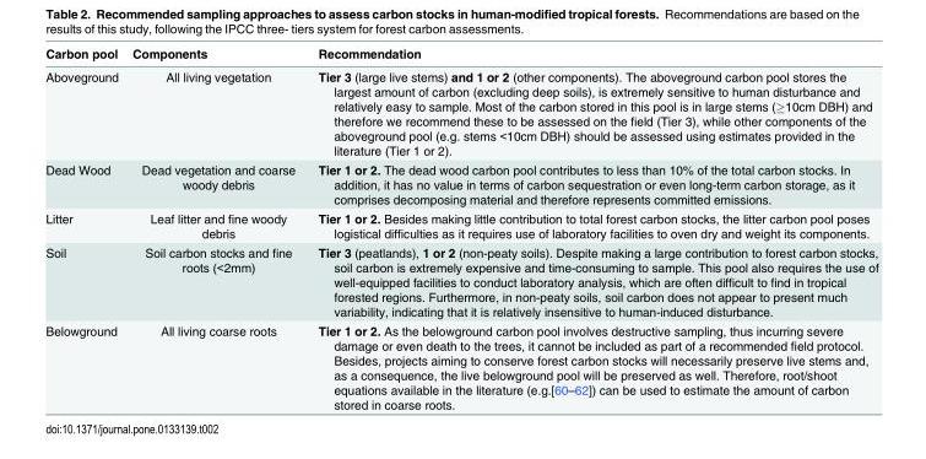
<table><thead><tr><td>Carbon pool</td><td>Components</td><td>Recommendation</td></tr></thead><tbody><tr><td>Aboveground</td><td>All living vegetation</td><td>Tier 3 (large live stems) and 1 or 2 (other components). The aboveground carbon pool stores the largest amount of carbon (excluding deep soils), is extremely sensitive to human disturbance and relatively easy to sample. Most of the carbon stored in this pool is in large stems (≥10cm DBH) and therefore we recommend these to be assessed on the field (Tier 3), while other components of the aboveground pool (e.g. stems &lt;10cm DBH) should be assessed using estimates provided in the literature (Tier 1 or 2).</td></tr><tr><td>Dead Wood</td><td>Dead vegetation and coarse woody debris</td><td>Tier 1 or 2. The dead wood carbon pool contributes to less than 10% of the total carbon stocks. In addition, it has no value in terms of carbon sequestration or even long-term carbon storage, as it comprises decomposing material and therefore represents committed emissions.</td></tr><tr><td>Litter</td><td>Leaf litter and fine woody debris</td><td>Tier 1 or 2. Besides making little contribution to total forest carbon stocks, the litter carbon pool poses logistical difficulties as it requires use of laboratory facilities to oven dry and weight its components.</td></tr><tr><td>Soil</td><td>Soil carbon stocks and fine roots (&lt;2mm)</td><td>Tier 3 (peatlands), 1 or 2 (non-peaty soils). Despite making a large contribution to forest carbon stocks, soil carbon is extremely expensive and time-consuming to sample. This pool also requires the use of well-equipped facilities to conduct laboratory analysis, which are often difficult to find in tropical forested regions. Furthermore, in non-peaty soils, soil carbon does not appear to present much variability, indicating that it is relatively insensitive to human-induced disturbance.</td></tr><tr><td>Belowground</td><td>All living coarse roots</td><td>Tier 1 or 2. As the belowground carbon pool involves destructive sampling, thus incurring severe damage or even death to the trees, it cannot be included as part of a recommended field protocol. Besides, projects aiming to conserve forest carbon stocks will necessarily preserve live stems and, as a consequence, the live belowground pool will be preserved as well. Therefore, root/shoot equations available in the literature (e.g.[60–62]) can be used to estimate the amount of carbon stored in coarse roots.</td></tr></tbody></table>